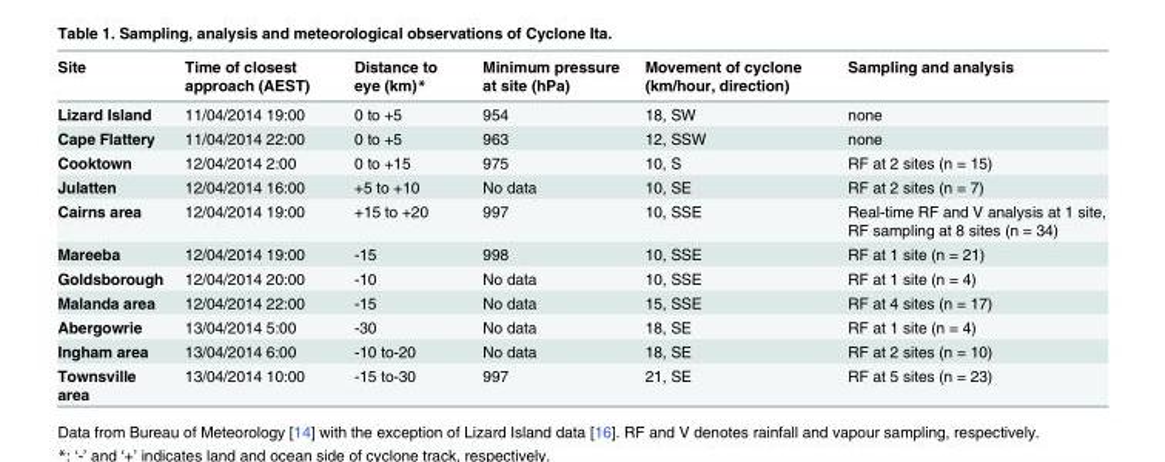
<table><thead><tr><td>Site</td><td>Time of closest approach (AEST)</td><td>Distance to eye (km)*</td><td>Minimum pressure at site (hPa)</td><td>Movement of cyclone (km/hour, direction)</td><td>Sampling and analysis</td></tr></thead><tbody><tr><td>Lizard Island</td><td>11/04/2014 19:00</td><td>0 to +5</td><td>954</td><td>18, SW</td><td>none</td></tr><tr><td>Cape Flattery</td><td>11/04/2014 22:00</td><td>0 to +5</td><td>963</td><td>12, SSW</td><td>none</td></tr><tr><td>Cooktown</td><td>12/04/2014 2:00</td><td>0 to +15</td><td>975</td><td>10, S</td><td>RF at 2 sites (n = 15)</td></tr><tr><td>Julatten</td><td>12/04/2014 16:00</td><td>+5 to +10</td><td>No data</td><td>10, SE</td><td>RF at 2 sites (n = 7)</td></tr><tr><td>Cairns area</td><td>12/04/2014 19:00</td><td>+15 to +20</td><td>997</td><td>10, SSE</td><td>Real-time RF and V analysis at 1 site, RF sampling at 8 sites (n = 34)</td></tr><tr><td>Mareeba</td><td>12/04/2014 19:00</td><td>-15</td><td>998</td><td>10, SSE</td><td>RF at 1 site (n = 21)</td></tr><tr><td>Goldsborough</td><td>12/04/2014 20:00</td><td>-10</td><td>No data</td><td>10, SSE</td><td>RF at 1 site (n = 4)</td></tr><tr><td>Malanda area</td><td>12/04/2014 22:00</td><td>-15</td><td>No data</td><td>15, SSE</td><td>RF at 4 sites (n = 17)</td></tr><tr><td>Abergowrie</td><td>13/04/2014 5:00</td><td>-30</td><td>No data</td><td>18, SE</td><td>RF at 1 site (n = 4)</td></tr><tr><td>Ingham area</td><td>13/04/2014 6:00</td><td>-10 to-20</td><td>No data</td><td>18, SE</td><td>RF at 2 sites (n = 10)</td></tr><tr><td>Townsville area</td><td>13/04/2014 10:00</td><td>-15 to-30</td><td>997</td><td>21, SE</td><td>RF at 5 sites (n = 23)</td></tr></tbody></table>